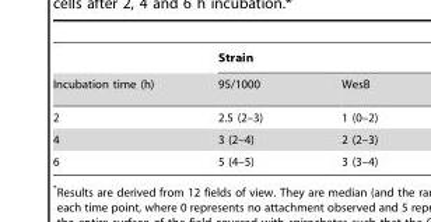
<table><thead><tr><td rowspan="2">Incubation time (h)</td><td colspan="2">Strain</td></tr><tr><td>95/1000</td><td>WesB</td></tr></thead><tbody><tr><td>2</td><td>2.5 (2–3)</td><td>1 (0–2)</td></tr><tr><td>4</td><td>3 (2–4)</td><td>2 (2–3)</td></tr><tr><td>6</td><td>5 (4–5)</td><td>3 (3–4)</td></tr></tbody></table>